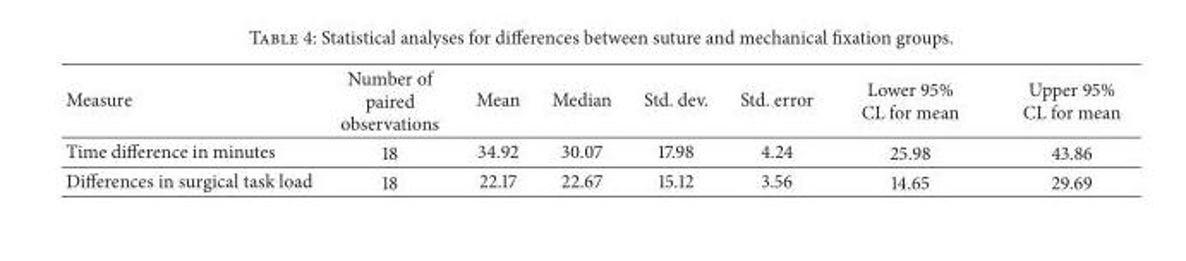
<table><thead><tr><td>Measure</td><td>Number of paired observations</td><td>Mean</td><td>Median</td><td>Std. dev.</td><td>Std. error</td><td>Lower 95% CL for mean</td><td>Upper 95% CL for mean</td></tr></thead><tbody><tr><td>Time difference in minutes</td><td>18</td><td>34.92</td><td>30.07</td><td>17.98</td><td>4.24</td><td>25.98</td><td>43.86</td></tr><tr><td>Differences in surgical task load</td><td>18</td><td>22.17</td><td>22.67</td><td>15.12</td><td>3.56</td><td>14.65</td><td>29.69</td></tr></tbody></table>